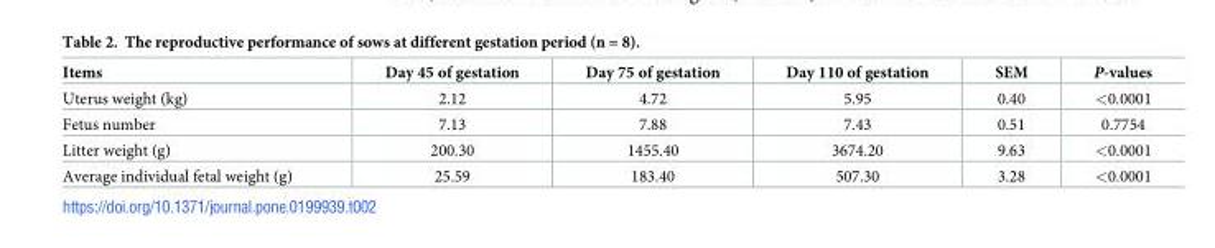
<table><thead><tr><td>Items</td><td>Day 45 of gestation</td><td>Day 75 of gestation</td><td>Day 110 of gestation</td><td>SEM</td><td>P-values</td></tr></thead><tbody><tr><td>Uterus weight (kg)</td><td>2.12</td><td>4.72</td><td>5.95</td><td>0.40</td><td>&lt;0.0001</td></tr><tr><td>Fetus number</td><td>7.13</td><td>7.88</td><td>7.43</td><td>0.51</td><td>0.7754</td></tr><tr><td>Litter weight (g)</td><td>200.30</td><td>1455.40</td><td>3674.20</td><td>9.63</td><td>&lt;0.0001</td></tr><tr><td>Average individual fetal weight (g)</td><td>25.59</td><td>183.40</td><td>507.30</td><td>3.28</td><td>&lt;0.0001</td></tr></tbody></table>